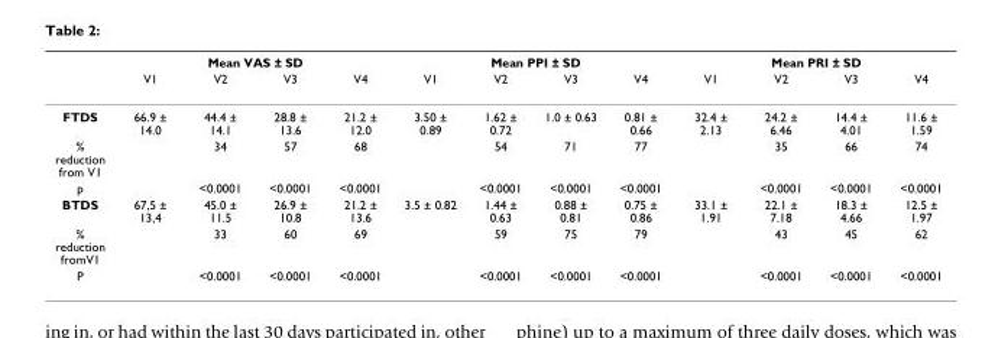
<table><thead><tr><td rowspan="2"></td><td colspan="4">Mean VAS ± SD</td><td colspan="4">Mean PPI ± SD</td><td colspan="4">Mean PRI ± SD</td></tr><tr><td>V1</td><td>V2</td><td>V3</td><td>V4</td><td>V1</td><td>V2</td><td>V3</td><td>V4</td><td>V1</td><td>V2</td><td>V3</td><td>V4</td></tr></thead><tbody><tr><td>FTDS</td><td>66.9 ± 14.0</td><td>44.4 ± 14.1</td><td>28.8 ± 13.6</td><td>21.2 ± 12.0</td><td>3.50 ± 0.89</td><td>1.62 ± 0.72</td><td>1.0 ± 0.63</td><td>0.81 ± 0.66</td><td>32.4 ± 2.13</td><td>24.2 ± 6.46</td><td>14.4 ± 4.01</td><td>11.6 ± 1.59</td></tr><tr><td>% reduction from V1</td><td></td><td>34</td><td>57</td><td>68</td><td></td><td>54</td><td>71</td><td>77</td><td></td><td>35</td><td>66</td><td>74</td></tr><tr><td>p</td><td></td><td>&lt;0.0001</td><td>&lt;0.0001</td><td>&lt;0.0001</td><td></td><td>&lt;0.0001</td><td>&lt;0.0001</td><td>&lt;0.0001</td><td></td><td>&lt;0.0001</td><td>&lt;0.0001</td><td>&lt;0.0001</td></tr><tr><td>BTDS</td><td>67,5 ± 13,4</td><td>45.0 ± 11.5</td><td>26.9 ± 10.8</td><td>21.2 ± 13.6</td><td>3.5 ± 0.82</td><td>1.44 ± 0.63</td><td>0.88 ± 0.81</td><td>0.75 ± 0.86</td><td>33.1 ± 1.91</td><td>22.1 ± 7.18</td><td>18.3 ± 4.66</td><td>12.5 ± 1.97</td></tr><tr><td>% reduction fromV1</td><td></td><td>33</td><td>60</td><td>69</td><td></td><td>59</td><td>75</td><td>79</td><td></td><td>43</td><td>45</td><td>62</td></tr><tr><td>P</td><td></td><td>&lt;0.0001</td><td>&lt;0.0001</td><td>&lt;0.0001</td><td></td><td>&lt;0.0001</td><td>&lt;0.0001</td><td>&lt;0.0001</td><td></td><td>&lt;0.0001</td><td>&lt;0.0001</td><td>&lt;0.0001</td></tr></tbody></table>